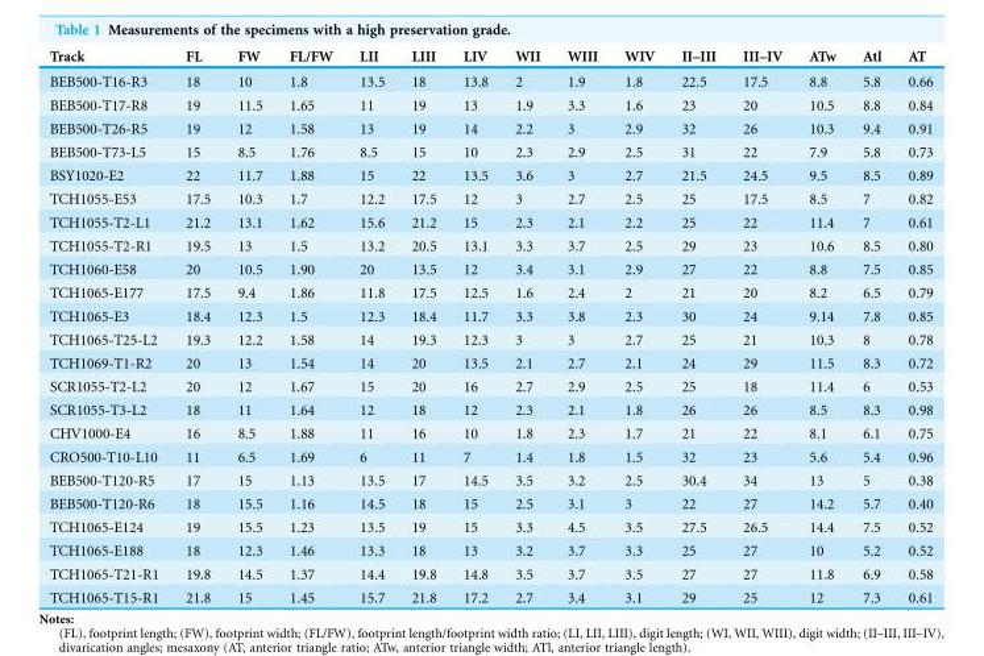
<table><thead><tr><td>Track</td><td>FL</td><td>FW</td><td>FL/FW</td><td>LII</td><td>LIII</td><td>LIV</td><td>WII</td><td>WIII</td><td>WIV</td><td>II–III</td><td>III–IV</td><td>ATw</td><td>Atl</td><td>AT</td></tr></thead><tbody><tr><td>BEB500-T16-R3</td><td>18</td><td>10</td><td>1.8</td><td>13.5</td><td>18</td><td>13.8</td><td>2</td><td>1.9</td><td>1.8</td><td>22.5</td><td>17.5</td><td>8.8</td><td>5.8</td><td>0.66</td></tr><tr><td>BEB500-T17-R8</td><td>19</td><td>11.5</td><td>1.65</td><td>11</td><td>19</td><td>13</td><td>1.9</td><td>3.3</td><td>1.6</td><td>23</td><td>20</td><td>10.5</td><td>8.8</td><td>0.84</td></tr><tr><td>BEB500-T26-R5</td><td>19</td><td>12</td><td>1.58</td><td>13</td><td>19</td><td>14</td><td>2.2</td><td>3</td><td>2.9</td><td>32</td><td>26</td><td>10.3</td><td>9.4</td><td>0.91</td></tr><tr><td>BEB500-T73-L5</td><td>15</td><td>8.5</td><td>1.76</td><td>8.5</td><td>15</td><td>10</td><td>2.3</td><td>2.9</td><td>2.5</td><td>31</td><td>22</td><td>7.9</td><td>5.8</td><td>0.73</td></tr><tr><td>BSY1020-E2</td><td>22</td><td>11.7</td><td>1.88</td><td>15</td><td>22</td><td>13.5</td><td>3.6</td><td>3</td><td>2.7</td><td>21.5</td><td>24.5</td><td>9.5</td><td>8.5</td><td>0.89</td></tr><tr><td>TCH1055-E53</td><td>17.5</td><td>10.3</td><td>1.7</td><td>12.2</td><td>17.5</td><td>12</td><td>3</td><td>2.7</td><td>2.5</td><td>25</td><td>17.5</td><td>8.5</td><td>7</td><td>0.82</td></tr><tr><td>TCH1055-T2-L1</td><td>21.2</td><td>13.1</td><td>1.62</td><td>15.6</td><td>21.2</td><td>15</td><td>2.3</td><td>2.1</td><td>2.2</td><td>25</td><td>22</td><td>11.4</td><td>7</td><td>0.61</td></tr><tr><td>TCH1055-T2-R1</td><td>19.5</td><td>13</td><td>1.5</td><td>13.2</td><td>20.5</td><td>13.1</td><td>3.3</td><td>3.7</td><td>2.5</td><td>29</td><td>23</td><td>10.6</td><td>8.5</td><td>0.80</td></tr><tr><td>TCH1060-E58</td><td>20</td><td>10.5</td><td>1.90</td><td>20</td><td>13.5</td><td>12</td><td>3.4</td><td>3.1</td><td>2.9</td><td>27</td><td>22</td><td>8.8</td><td>7.5</td><td>0.85</td></tr><tr><td>TCH1065-E177</td><td>17.5</td><td>9.4</td><td>1.86</td><td>11.8</td><td>17.5</td><td>12.5</td><td>1.6</td><td>2.4</td><td>2</td><td>21</td><td>20</td><td>8.2</td><td>6.5</td><td>0.79</td></tr><tr><td>TCH1065-E3</td><td>18.4</td><td>12.3</td><td>1.5</td><td>12.3</td><td>18.4</td><td>11.7</td><td>3.3</td><td>3.8</td><td>2.3</td><td>30</td><td>24</td><td>9.14</td><td>7.8</td><td>0.85</td></tr><tr><td>TCH1065-T25-L2</td><td>19.3</td><td>12.2</td><td>1.58</td><td>14</td><td>19.3</td><td>12.3</td><td>3</td><td>3</td><td>2.7</td><td>25</td><td>21</td><td>10.3</td><td>8</td><td>0.78</td></tr><tr><td>TCH1069-T1-R2</td><td>20</td><td>13</td><td>1.54</td><td>14</td><td>20</td><td>13.5</td><td>2.1</td><td>2.7</td><td>2.1</td><td>24</td><td>29</td><td>11.5</td><td>8.3</td><td>0.72</td></tr><tr><td>SCR1055-T2-L2</td><td>20</td><td>12</td><td>1.67</td><td>15</td><td>20</td><td>16</td><td>2.7</td><td>2.9</td><td>2.5</td><td>25</td><td>18</td><td>11.4</td><td>6</td><td>0.53</td></tr><tr><td>SCR1055-T3-L2</td><td>18</td><td>11</td><td>1.64</td><td>12</td><td>18</td><td>12</td><td>2.3</td><td>2.1</td><td>1.8</td><td>26</td><td>26</td><td>8.5</td><td>8.3</td><td>0.98</td></tr><tr><td>CHV1000-E4</td><td>16</td><td>8.5</td><td>1.88</td><td>11</td><td>16</td><td>10</td><td>1.8</td><td>2.3</td><td>1.7</td><td>21</td><td>22</td><td>8.1</td><td>6.1</td><td>0.75</td></tr><tr><td>CRO500-T10-L10</td><td>11</td><td>6.5</td><td>1.69</td><td>6</td><td>11</td><td>7</td><td>1.4</td><td>1.8</td><td>1.5</td><td>32</td><td>23</td><td>5.6</td><td>5.4</td><td>0.96</td></tr><tr><td>BEB500-T120-R5</td><td>17</td><td>15</td><td>1.13</td><td>13.5</td><td>17</td><td>14.5</td><td>3.5</td><td>3.2</td><td>2.5</td><td>30.4</td><td>34</td><td>13</td><td>5</td><td>0.38</td></tr><tr><td>BEB500-T120-R6</td><td>18</td><td>15.5</td><td>1.16</td><td>14.5</td><td>18</td><td>15</td><td>2.5</td><td>3.1</td><td>3</td><td>22</td><td>27</td><td>14.2</td><td>5.7</td><td>0.40</td></tr><tr><td>TCH1065-E124</td><td>19</td><td>15.5</td><td>1.23</td><td>13.5</td><td>19</td><td>15</td><td>3.3</td><td>4.5</td><td>3.5</td><td>27.5</td><td>26.5</td><td>14.4</td><td>7.5</td><td>0.52</td></tr><tr><td>TCH1065-E188</td><td>18</td><td>12.3</td><td>1.46</td><td>13.3</td><td>18</td><td>13</td><td>3.2</td><td>3.7</td><td>3.3</td><td>25</td><td>27</td><td>10</td><td>5.2</td><td>0.52</td></tr><tr><td>TCH1065-T21-R1</td><td>19.8</td><td>14.5</td><td>1.37</td><td>14.4</td><td>19.8</td><td>14.8</td><td>3.5</td><td>3.7</td><td>3.5</td><td>27</td><td>27</td><td>11.8</td><td>6.9</td><td>0.58</td></tr><tr><td>TCH1065-T15-R1</td><td>21.8</td><td>15</td><td>1.45</td><td>15.7</td><td>21.8</td><td>17.2</td><td>2.7</td><td>3.4</td><td>3.1</td><td>29</td><td>25</td><td>12</td><td>7.3</td><td>0.61</td></tr></tbody></table>